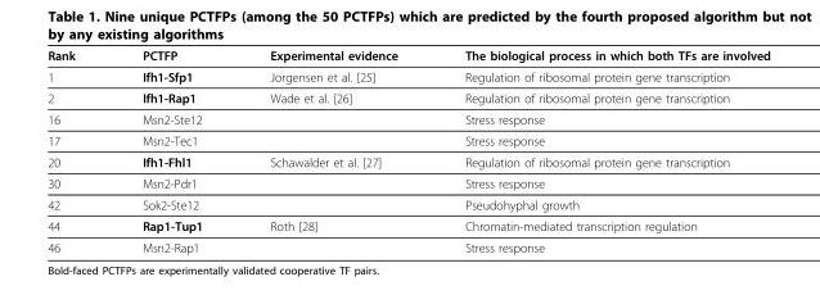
<table><thead><tr><td>Rank</td><td>PCTFP</td><td>Experimental evidence</td><td>The biological process in which both TFs are involved</td></tr></thead><tbody><tr><td>1</td><td>Ifh1-Sfp1</td><td>Jorgensen et al. [25]</td><td>Regulation of ribosomal protein gene transcription</td></tr><tr><td>2</td><td>Ifh1-Rap1</td><td>Wade et al. [26]</td><td>Regulation of ribosomal protein gene transcription</td></tr><tr><td>16</td><td>Msn2-Ste12</td><td></td><td>Stress response</td></tr><tr><td>17</td><td>Msn2-Tec1</td><td></td><td>Stress response</td></tr><tr><td>20</td><td>Ifh1-Fhl1</td><td>Schawalder et al. [27]</td><td>Regulation of ribosomal protein gene transcription</td></tr><tr><td>30</td><td>Msn2-Pdr1</td><td></td><td>Stress response</td></tr><tr><td>42</td><td>Sok2-Ste12</td><td></td><td>Pseudohyphal growth</td></tr><tr><td>44</td><td>Rap1-Tup1</td><td>Roth [28]</td><td>Chromatin-mediated transcription regulation</td></tr><tr><td>46</td><td>Msn2-Rap1</td><td></td><td>Stress response</td></tr></tbody></table>